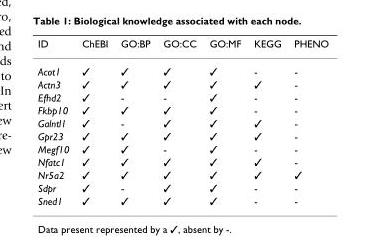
<table><thead><tr><td>ID</td><td>ChEBI</td><td>GO:BP</td><td>GO:CC</td><td>GO:MF</td><td>KEGG</td><td>PHENO</td></tr></thead><tbody><tr><td>Acot1</td><td>✓</td><td>✓</td><td>✓</td><td>✓</td><td>-</td><td>-</td></tr><tr><td>Actn3</td><td>✓</td><td>✓</td><td>✓</td><td>✓</td><td>✓</td><td>-</td></tr><tr><td>Efhd2</td><td>✓</td><td>-</td><td>-</td><td>✓</td><td>-</td><td>-</td></tr><tr><td>Fkbp10</td><td>✓</td><td>✓</td><td>✓</td><td>✓</td><td>-</td><td>-</td></tr><tr><td>Galntl1</td><td>✓</td><td>-</td><td>✓</td><td>✓</td><td>✓</td><td>-</td></tr><tr><td>Gpr23</td><td>✓</td><td>✓</td><td>✓</td><td>✓</td><td>✓</td><td>-</td></tr><tr><td>Megf10</td><td>✓</td><td>✓</td><td>-</td><td>✓</td><td>-</td><td>-</td></tr><tr><td>Nfatc1</td><td>✓</td><td>✓</td><td>✓</td><td>✓</td><td>✓</td><td>-</td></tr><tr><td>Nr5a2</td><td>✓</td><td>✓</td><td>✓</td><td>✓</td><td>✓</td><td>✓</td></tr><tr><td>Sdpr</td><td>✓</td><td>-</td><td>✓</td><td>✓</td><td>-</td><td>-</td></tr><tr><td>Sned1</td><td>✓</td><td>✓</td><td>✓</td><td>✓</td><td>-</td><td>-</td></tr></tbody></table>